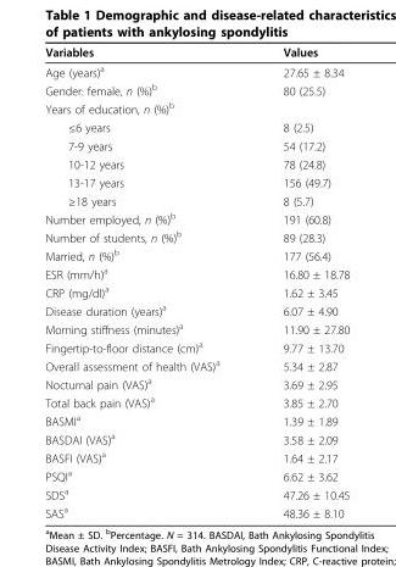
<table><thead><tr><td>Variables</td><td>Values</td></tr></thead><tbody><tr><td>Age (years)<sup>a</sup></td><td>27.65 ± 8.34</td></tr><tr><td>Gender: female, n (%)<sup>b</sup></td><td>80 (25.5)</td></tr><tr><td colspan="2">Years of education, n (%)<sup>b</sup></td></tr><tr><td>≤6 years</td><td>8 (2.5)</td></tr><tr><td>7-9 years</td><td>54 (17.2)</td></tr><tr><td>10-12 years</td><td>78 (24.8)</td></tr><tr><td>13-17 years</td><td>156 (49.7)</td></tr><tr><td>≥18 years</td><td>8 (5.7)</td></tr><tr><td>Number employed, n (%)<sup>b</sup></td><td>191 (60.8)</td></tr><tr><td>Number of students, n (%)<sup>b</sup></td><td>89 (28.3)</td></tr><tr><td>Married, n (%)<sup>b</sup></td><td>177 (56.4)</td></tr><tr><td>ESR (mm/h)<sup>a</sup></td><td>16.80 ± 18.78</td></tr><tr><td>CRP (mg/dl)<sup>a</sup></td><td>1.62 ± 3.45</td></tr><tr><td>Disease duration (years)<sup>a</sup></td><td>6.07 ± 4.90</td></tr><tr><td>Morning stiffness (minutes)<sup>a</sup></td><td>11.90 ± 27.80</td></tr><tr><td>Fingertip-to-floor distance (cm)<sup>a</sup></td><td>9.77 ± 13.70</td></tr><tr><td>Overall assessment of health (VAS)<sup>a</sup></td><td>5.34 ± 2.87</td></tr><tr><td>Nocturnal pain (VAS)<sup>a</sup></td><td>3.69 ± 2.95</td></tr><tr><td>Total back pain (VAS)<sup>a</sup></td><td>3.85 ± 2.70</td></tr><tr><td>BASMI<sup>a</sup></td><td>1.39 ± 1.89</td></tr><tr><td>BASDAI (VAS)<sup>a</sup></td><td>3.58 ± 2.09</td></tr><tr><td>BASFI (VAS)<sup>a</sup></td><td>1.64 ± 2.17</td></tr><tr><td>PSQI<sup>a</sup></td><td>6.62 ± 3.62</td></tr><tr><td>SDS<sup>a</sup></td><td>47.26 ± 10.45</td></tr><tr><td>SAS<sup>a</sup></td><td>48.36 ± 8.10</td></tr></tbody></table>